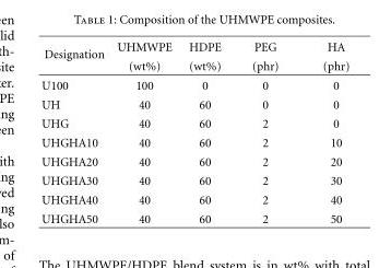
<table><thead><tr><td rowspan="2">Designation</td><td rowspan="2">UHMWPE (wt%)</td><td rowspan="2">HDPE (wt%)</td><td rowspan="2">PEG (phr)</td><td rowspan="2">HA (phr)</td></tr><tr></tr></thead><tbody><tr><td>U100</td><td>100</td><td>0</td><td>0</td><td>0</td></tr><tr><td>UH</td><td>40</td><td>60</td><td>0</td><td>0</td></tr><tr><td>UHG</td><td>40</td><td>60</td><td>2</td><td>0</td></tr><tr><td>UHGHA10</td><td>40</td><td>60</td><td>2</td><td>10</td></tr><tr><td>UHGHA20</td><td>40</td><td>60</td><td>2</td><td>20</td></tr><tr><td>UHGHA30</td><td>40</td><td>60</td><td>2</td><td>30</td></tr><tr><td>UHGHA40</td><td>40</td><td>60</td><td>2</td><td>40</td></tr><tr><td>UHGHA50</td><td>40</td><td>60</td><td>2</td><td>50</td></tr></tbody></table>